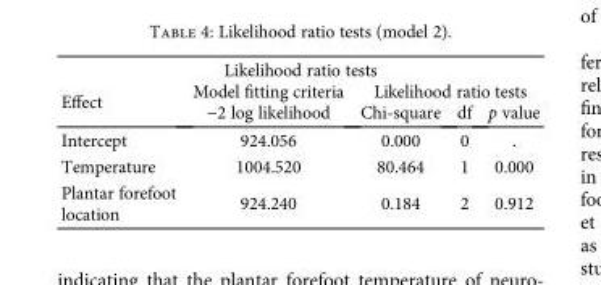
<table><thead><tr><td colspan="5">Likelihood ratio tests</td></tr><tr><td rowspan="2">Effect</td><td rowspan="2">Model fitting criteria −2 log likelihood</td><td colspan="3">Likelihood ratio tests</td></tr><tr><td>Chi-square</td><td>df</td><td>p value</td></tr></thead><tbody><tr><td>Intercept</td><td>924.056</td><td>0.000</td><td>0</td><td>.</td></tr><tr><td>Temperature</td><td>1004.520</td><td>80.464</td><td>1</td><td>0.000</td></tr><tr><td>Plantar forefoot location</td><td>924.240</td><td>0.184</td><td>2</td><td>0.912</td></tr></tbody></table>